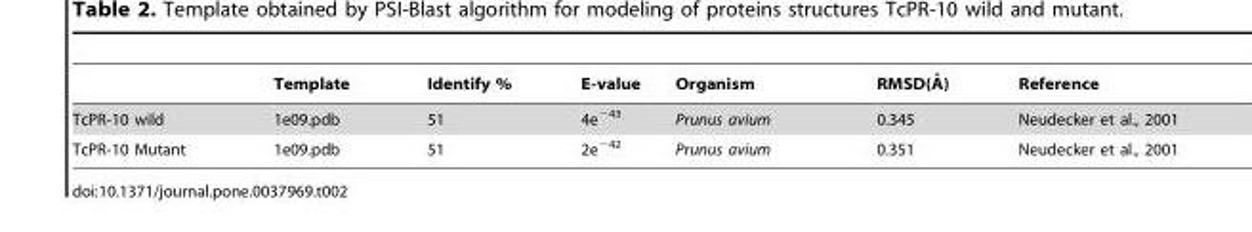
<table><thead><tr><td></td><td>Template</td><td>Identify %</td><td>E-value</td><td>Organism</td><td>RMSD(A˚ )</td><td>Reference</td></tr></thead><tbody><tr><td>TcPR-10 wild</td><td>1e09.pdb</td><td>51</td><td>4e<sup>−43</sup></td><td>Prunus avium</td><td>0.345</td><td>Neudecker et al., 2001</td></tr><tr><td>TcPR-10 Mutant</td><td>1e09.pdb</td><td>51</td><td>2e<sup>−42</sup></td><td>Prunus avium</td><td>0.351</td><td>Neudecker et al., 2001</td></tr></tbody></table>